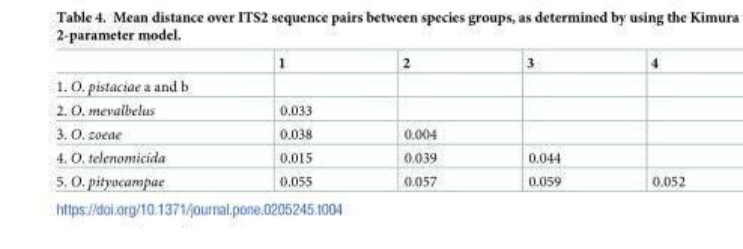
<table><thead><tr><td></td><td>1</td><td>2</td><td>3</td><td>4</td></tr></thead><tbody><tr><td colspan="5">1. O. pistaciae a and b</td></tr><tr><td>2. O. mevalbelus</td><td>0.033</td><td></td><td></td><td></td></tr><tr><td>3. O. zoeae</td><td>0.038</td><td>0.004</td><td></td><td></td></tr><tr><td>4. O. telenomicida</td><td>0.015</td><td>0.039</td><td>0.044</td><td></td></tr><tr><td>5. O. pityocampae</td><td>0.055</td><td>0.057</td><td>0.059</td><td>0.052</td></tr></tbody></table>